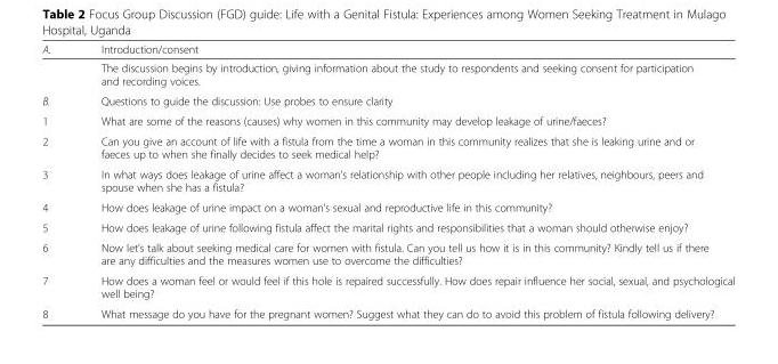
<table><thead><tr><td>A.</td><td>Introduction/consent</td></tr></thead><tbody><tr><td></td><td>The discussion begins by introduction, giving information about the study to respondents and seeking consent for participation and recording voices.</td></tr><tr><td>B.</td><td>Questions to guide the discussion: Use probes to ensure clarity</td></tr><tr><td>1</td><td>What are some of the reasons (causes) why women in this community may develop leakage of urine/faeces?</td></tr><tr><td>2</td><td>Can you give an account of life with a fistula from the time a woman in this community realizes that she is leaking urine and or faeces up to when she finally decides to seek medical help?</td></tr><tr><td>3</td><td>In what ways does leakage of urine affect a woman’s relationship with other people including her relatives, neighbours, peers and spouse when she has a fistula?</td></tr><tr><td>4</td><td>How does leakage of urine impact on a woman’s sexual and reproductive life in this community?</td></tr><tr><td>5</td><td>How does leakage of urine following fistula affect the marital rights and responsibilities that a woman should otherwise enjoy?</td></tr><tr><td>6</td><td>Now let’s talk about seeking medical care for women with fistula. Can you tell us how it is in this community? Kindly tell us if there are any difficulties and the measures women use to overcome the difficulties?</td></tr><tr><td>7</td><td>How does a woman feel or would feel if this hole is repaired successfully. How does repair influence her social, sexual, and psychological well being?</td></tr><tr><td>8</td><td>What message do you have for the pregnant women? Suggest what they can do to avoid this problem of fistula following delivery?</td></tr></tbody></table>